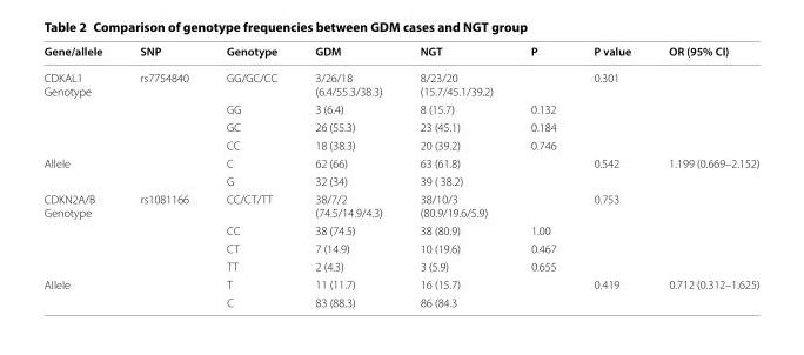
<table><thead><tr><td>Gene/allele</td><td>SNP</td><td>Genotype</td><td>GDM</td><td>NGT</td><td>P</td><td>P value</td><td>OR (95% CI)</td></tr></thead><tbody><tr><td rowspan="4">CDKAL1 Genotype</td><td rowspan="6">rs7754840</td><td>GG/GC/CC</td><td>3/26/18 (6.4/55.3/38.3)</td><td>8/23/20 (15.7/45.1/39.2)</td><td></td><td>0.301</td><td></td></tr><tr><td>GG</td><td>3 (6.4)</td><td>8 (15.7)</td><td>0.132</td><td></td><td></td></tr><tr><td>GC</td><td>26 (55.3)</td><td>23 (45.1)</td><td>0.184</td><td></td><td></td></tr><tr><td>CC</td><td>18 (38.3)</td><td>20 (39.2)</td><td>0.746</td><td></td><td></td></tr><tr><td rowspan="2">Allele</td><td>C</td><td>62 (66)</td><td>63 (61.8)</td><td></td><td>0.542</td><td>1.199 (0.669–2.152)</td></tr><tr><td>G</td><td>32 (34)</td><td>39 ( 38.2)</td><td></td><td></td><td></td></tr><tr><td rowspan="4">CDKN2A/B Genotype</td><td rowspan="6">rs1081166</td><td>CC/CT/TT</td><td>38/7/2 (74.5/14.9/4.3)</td><td>38/10/3 (80.9/19.6/5.9)</td><td></td><td>0.753</td><td></td></tr><tr><td>CC</td><td>38 (74.5)</td><td>38 (80.9)</td><td>1.00</td><td></td><td></td></tr><tr><td>CT</td><td>7 (14.9)</td><td>10 (19.6)</td><td>0.467</td><td></td><td></td></tr><tr><td>TT</td><td>2 (4.3)</td><td>3 (5.9)</td><td>0.655</td><td></td><td></td></tr><tr><td rowspan="2">Allele</td><td>T</td><td>11 (11.7)</td><td>16 (15.7)</td><td></td><td>0.419</td><td>0.712 (0.312–1.625)</td></tr><tr><td>C</td><td>83 (88.3)</td><td>86 (84.3</td><td></td><td></td><td></td></tr></tbody></table>